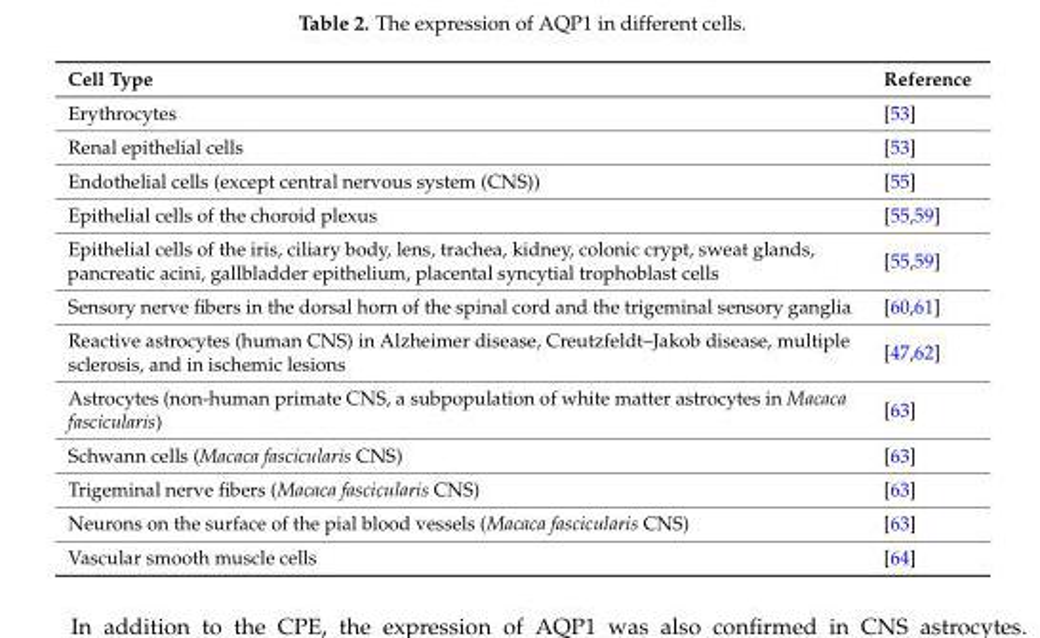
<table><thead><tr><td>Cell Type</td><td>Reference</td></tr></thead><tbody><tr><td>Erythrocytes</td><td>[53]</td></tr><tr><td>Renal epithelial cells</td><td>[53]</td></tr><tr><td>Endothelial cells (except central nervous system (CNS))</td><td>[55]</td></tr><tr><td>Epithelial cells of the choroid plexus</td><td>[55,59]</td></tr><tr><td>Epithelial cells of the iris, ciliary body, lens, trachea, kidney, colonic crypt, sweat glands, pancreatic acini, gallbladder epithelium, placental syncytial trophoblast cells</td><td>[55,59]</td></tr><tr><td>Sensory nerve fibers in the dorsal horn of the spinal cord and the trigeminal sensory ganglia</td><td>[60,61]</td></tr><tr><td>Reactive astrocytes (human CNS) in Alzheimer disease, Creutzfeldt–Jakob disease, multiple sclerosis, and in ischemic lesions</td><td>[47,62]</td></tr><tr><td>Astrocytes (non-human primate CNS, a subpopulation of white matter astrocytes in Macaca fascicularis)</td><td>[63]</td></tr><tr><td>Schwann cells (Macaca fascicularis CNS)</td><td>[63]</td></tr><tr><td>Trigeminal nerve fibers (Macaca fascicularis CNS)</td><td>[63]</td></tr><tr><td>Neurons on the surface of the pial blood vessels (Macaca fascicularis CNS)</td><td>[63]</td></tr><tr><td>Vascular smooth muscle cells</td><td>[64]</td></tr></tbody></table>